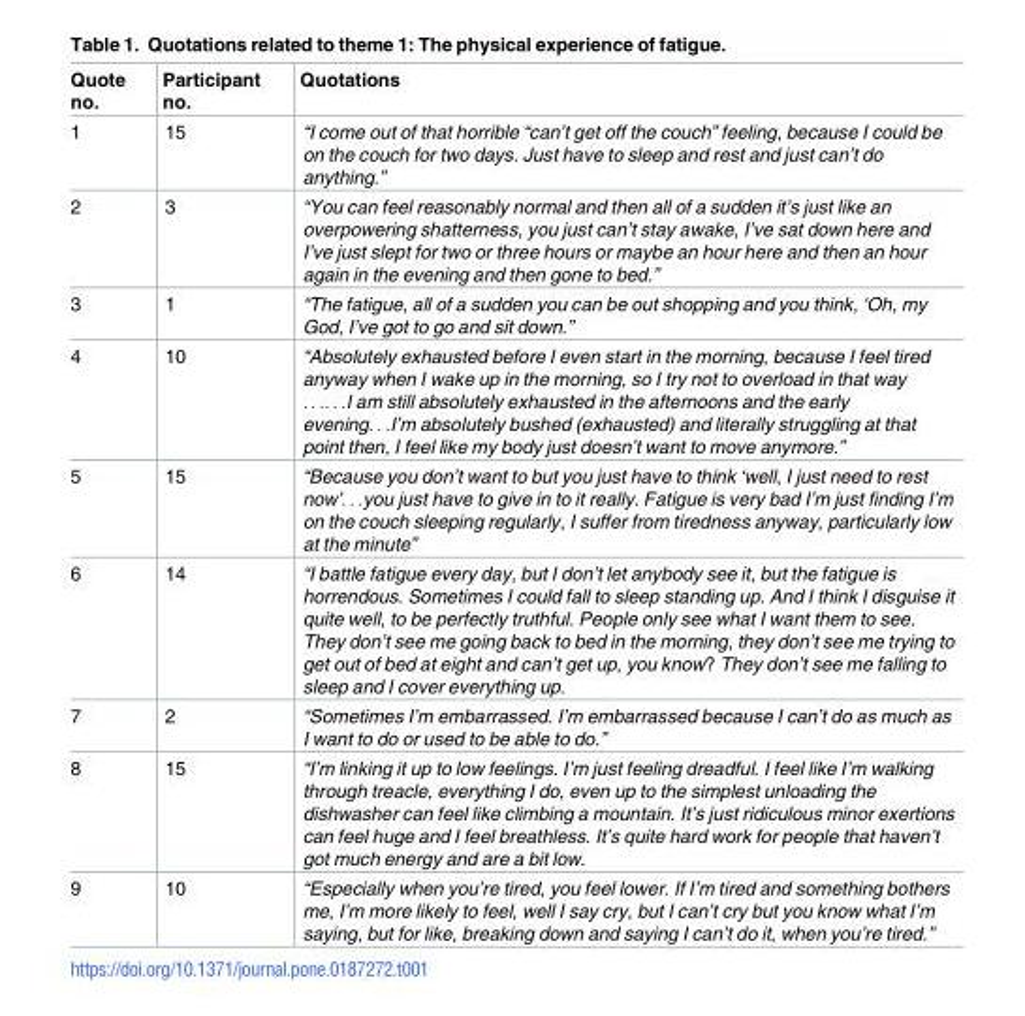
<table><thead><tr><td>Quote no.</td><td>Participant no.</td><td>Quotations</td></tr></thead><tbody><tr><td>1</td><td>15</td><td>“I come out of that horrible “can’t get off the couch” feeling, because I could be on the couch for two days. Just have to sleep and rest and just can’t do anything.”</td></tr><tr><td>2</td><td>3</td><td>“You can feel reasonably normal and then all of a sudden it’s just like an overpowering shatterness, you just can’t stay awake, I’ve sat down here and I’ve just slept for two or three hours or maybe an hour here and then an hour again in the evening and then gone to bed.”</td></tr><tr><td>3</td><td>1</td><td>“The fatigue, all of a sudden you can be out shopping and you think, ‘Oh, my God, I’ve got to go and sit down.”</td></tr><tr><td>4</td><td>10</td><td>“Absolutely exhausted before I even start in the morning, because I feel tired anyway when I wake up in the morning, so I try not to overload in that way . . .. . .I am still absolutely exhausted in the afternoons and the early evening. . .I’m absolutely bushed (exhausted) and literally struggling at that point then, I feel like my body just doesn’t want to move anymore.”</td></tr><tr><td>5</td><td>15</td><td>“Because you don’t want to but you just have to think ‘well, I just need to rest now’. . .you just have to give in to it really. Fatigue is very bad I’m just finding I’m on the couch sleeping regularly, I suffer from tiredness anyway, particularly low at the minute”</td></tr><tr><td>6</td><td>14</td><td>“I battle fatigue every day, but I don’t let anybody see it, but the fatigue is horrendous. Sometimes I could fall to sleep standing up. And I think I disguise it quite well, to be perfectly truthful. People only see what I want them to see. They don’t see me going back to bed in the morning, they don’t see me trying to get out of bed at eight and can’t get up, you know? They don’t see me falling to sleep and I cover everything up.</td></tr><tr><td>7</td><td>2</td><td>“Sometimes I’m embarrassed. I’m embarrassed because I can’t do as much as I want to do or used to be able to do.”</td></tr><tr><td>8</td><td>15</td><td>“I’m linking it up to low feelings. I’m just feeling dreadful. I feel like I’m walking through treacle, everything I do, even up to the simplest unloading the dishwasher can feel like climbing a mountain. It’s just ridiculous minor exertions can feel huge and I feel breathless. It’s quite hard work for people that haven’t got much energy and are a bit low.</td></tr><tr><td>9</td><td>10</td><td>“Especially when you’re tired, you feel lower. If I’m tired and something bothers me, I’m more likely to feel, well I say cry, but I can’t cry but you know what I’m saying, but for like, breaking down and saying I can’t do it, when you’re tired.”</td></tr></tbody></table>